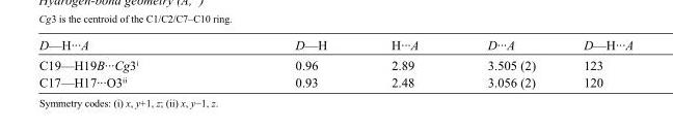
<table><tbody><tr><td>D—H···A</td><td>D—H</td><td>H···A</td><td>D···A</td><td>D—H···A</td></tr><tr><td>C19—H19B···Cg3<sup>i</sup></td><td>0.96</td><td>2.89</td><td>3.505 (2)</td><td>123</td></tr><tr><td>C17—H17···O3<sup>ii</sup></td><td>0.93</td><td>2.48</td><td>3.056 (2)</td><td>120</td></tr></tbody></table>